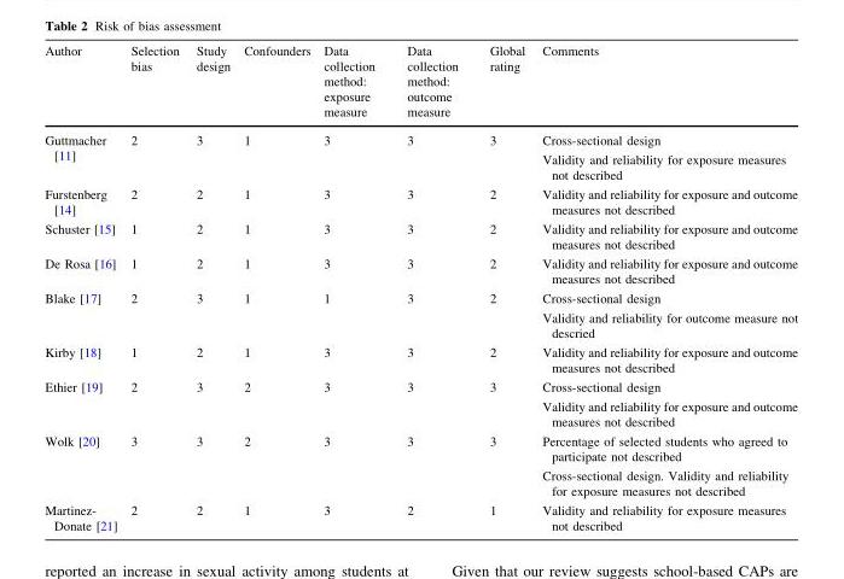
<table><thead><tr><td>Author</td><td>Selection bias</td><td>Study design</td><td>Confounders</td><td>Data collection method: exposure measure</td><td>Data collection method: outcome measure</td><td>Global rating</td><td>Comments</td></tr></thead><tbody><tr><td>Guttmacher [11]</td><td>2</td><td>3</td><td>1</td><td>3</td><td>3</td><td>3</td><td>Cross-sectional design Validity and reliability for exposure measures not described</td></tr><tr><td>Furstenberg [14]</td><td>2</td><td>2</td><td>1</td><td>3</td><td>3</td><td>2</td><td>Validity and reliability for exposure and outcome measures not described</td></tr><tr><td>Schuster [15]</td><td>1</td><td>2</td><td>1</td><td>3</td><td>3</td><td>2</td><td>Validity and reliability for exposure and outcome measures not described</td></tr><tr><td>De Rosa [16]</td><td>1</td><td>2</td><td>1</td><td>3</td><td>3</td><td>2</td><td>Validity and reliability for exposure and outcome measures not described</td></tr><tr><td>Blake [17]</td><td>2</td><td>3</td><td>1</td><td>1</td><td>3</td><td>2</td><td>Cross-sectional design Validity and reliability for outcome measure not descried</td></tr><tr><td>Kirby [18]</td><td>1</td><td>2</td><td>1</td><td>3</td><td>3</td><td>2</td><td>Validity and reliability for exposure and outcome measures not described</td></tr><tr><td>Ethier [19]</td><td>2</td><td>3</td><td>2</td><td>3</td><td>3</td><td>3</td><td>Cross-sectional design Validity and reliability for exposure and outcome measures not described</td></tr><tr><td>Wolk [20]</td><td>3</td><td>3</td><td>2</td><td>3</td><td>3</td><td>3</td><td>Percentage of selected students who agreed to participate not described Cross-sectional design. Validity and reliability for exposure measures not described</td></tr><tr><td>Martinez- Donate [21]</td><td>2</td><td>2</td><td>1</td><td>3</td><td>2</td><td>1</td><td>Validity and reliability for exposure measures not described</td></tr></tbody></table>